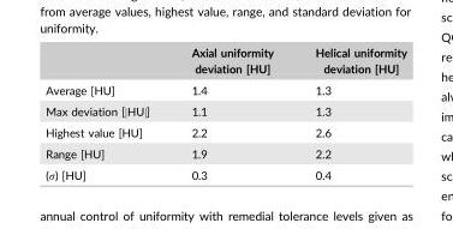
<table><thead><tr><td></td><td>Axial uniformity deviation [HU]</td><td>Helical uniformity deviation [HU]</td></tr></thead><tbody><tr><td>Average [HU]</td><td>1.4</td><td>1.3</td></tr><tr><td>Max deviation [|HU|]</td><td>1.1</td><td>1.3</td></tr><tr><td>Highest value [HU]</td><td>2.2</td><td>2.6</td></tr><tr><td>Range [HU]</td><td>1.9</td><td>2.2</td></tr><tr><td>(σ) [HU]</td><td>0.3</td><td>0.4</td></tr></tbody></table>